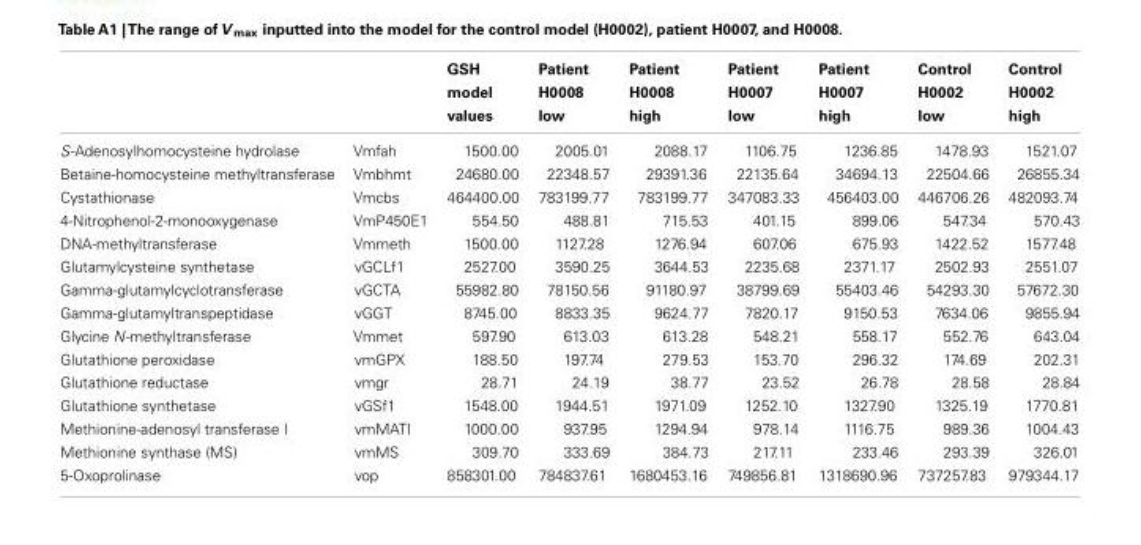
<table><thead><tr><td></td><td></td><td>GSH model values</td><td>Patient H0008 low</td><td>Patient H0008 high</td><td>Patient H0007 low</td><td>Patient H0007 high</td><td>Control H0002 low</td><td>Control H0002 high</td></tr></thead><tbody><tr><td>S-Adenosylhomocysteine hydrolase</td><td>Vmfah</td><td>1500.00</td><td>2005.01</td><td>2088.17</td><td>1106.75</td><td>1236.85</td><td>1478.93</td><td>1521.07</td></tr><tr><td>Betaine-homocysteine methyltransferase</td><td>Vmbhmt</td><td>24680.00</td><td>22348.57</td><td>29391.36</td><td>22135.64</td><td>34694.13</td><td>22504.66</td><td>26855.34</td></tr><tr><td>Cystathionase</td><td>Vmcbs</td><td>464400.00</td><td>783199.77</td><td>783199.77</td><td>347083.33</td><td>456403.00</td><td>446706.26</td><td>482093.74</td></tr><tr><td>4-Nitrophenol-2-monooxygenase</td><td>VmP450E1</td><td>554.50</td><td>488.81</td><td>715.53</td><td>401.15</td><td>899.06</td><td>547.34</td><td>570.43</td></tr><tr><td>DNA-methyltransferase</td><td>Vmmeth</td><td>1500.00</td><td>1127.28</td><td>1276.94</td><td>607.06</td><td>675.93</td><td>1422.52</td><td>1577.48</td></tr><tr><td>Glutamylcysteine synthetase</td><td>vGCLf1</td><td>2527.00</td><td>3590.25</td><td>3644.53</td><td>2235.68</td><td>2371.17</td><td>2502.93</td><td>2551.07</td></tr><tr><td>Gamma-glutamylcyclotransferase</td><td>vGCTA</td><td>55982.80</td><td>78150.56</td><td>91180.97</td><td>38799.69</td><td>55403.46</td><td>54293.30</td><td>57672.30</td></tr><tr><td>Gamma-glutamyltranspeptidase</td><td>vGGT</td><td>8745.00</td><td>8833.35</td><td>9624.77</td><td>7820.17</td><td>9150.53</td><td>7634.06</td><td>9855.94</td></tr><tr><td>Glycine N-methyltransferase</td><td>Vmmet</td><td>597.90</td><td>613.03</td><td>613.28</td><td>548.21</td><td>558.17</td><td>552.76</td><td>643.04</td></tr><tr><td>Glutathione peroxidase</td><td>vmGPX</td><td>188.50</td><td>197.74</td><td>279.53</td><td>153.70</td><td>296.32</td><td>174.69</td><td>202.31</td></tr><tr><td>Glutathione reductase</td><td>vmgr</td><td>28.71</td><td>24.19</td><td>38.77</td><td>23.52</td><td>26.78</td><td>28.58</td><td>28.84</td></tr><tr><td>Glutathione synthetase</td><td>vGSf1</td><td>1548.00</td><td>1944.51</td><td>1971.09</td><td>1252.10</td><td>1327.90</td><td>1325.19</td><td>1770.81</td></tr><tr><td>Methionine-adenosyl transferase I</td><td>vmMATI</td><td>1000.00</td><td>937.95</td><td>1294.94</td><td>978.14</td><td>1116.75</td><td>989.36</td><td>1004.43</td></tr><tr><td>Methionine synthase (MS)</td><td>vmMS</td><td>309.70</td><td>333.69</td><td>384.73</td><td>217.11</td><td>233.46</td><td>293.39</td><td>326.01</td></tr><tr><td>5-Oxoprolinase</td><td>vop</td><td>858301.00</td><td>784837.61</td><td>1680453.16</td><td>749856.81</td><td>1318690.96</td><td>737257.83</td><td>979344.17</td></tr></tbody></table>